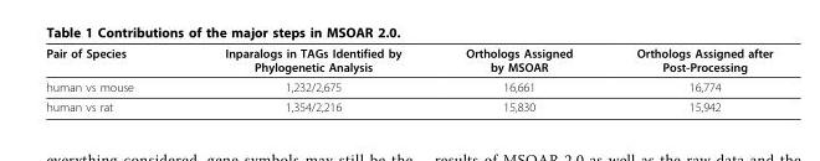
<table><thead><tr><td>Pair of Species</td><td>Inparalogs in TAGs Identified by Phylogenetic Analysis</td><td>Orthologs Assigned by MSOAR</td><td>Orthologs Assigned after Post-Processing</td></tr></thead><tbody><tr><td>human vs mouse</td><td>1,232/2,675</td><td>16,661</td><td>16,774</td></tr><tr><td>human vs rat</td><td>1,354/2,216</td><td>15,830</td><td>15,942</td></tr></tbody></table>